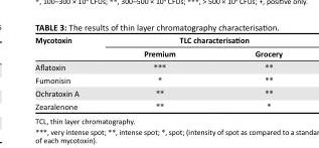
<table><thead><tr><td rowspan="2">Mycotoxin</td><td colspan="2">TLC characterisation</td></tr><tr><td>Premium</td><td>Grocery</td></tr></thead><tbody><tr><td>Aflatoxin</td><td>***</td><td>**</td></tr><tr><td>Fumonisin</td><td>*</td><td>**</td></tr><tr><td>Ochratoxin A</td><td>**</td><td>**</td></tr><tr><td>Zearalenone</td><td>**</td><td>*</td></tr></tbody></table>